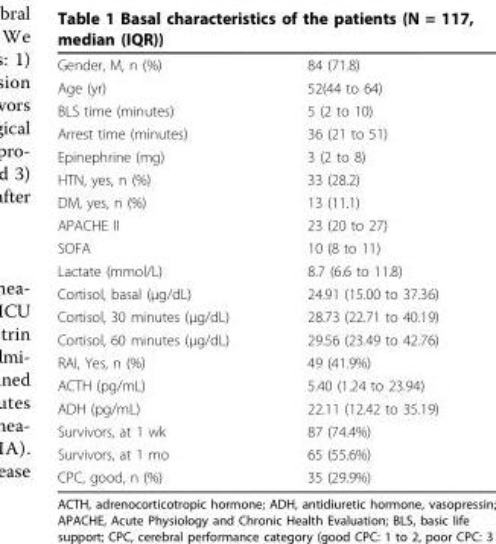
<table><tbody><tr><td>Gender, M, n (%)</td><td>84 (71.8)</td></tr><tr><td>Age (yr)</td><td>52(44 to 64)</td></tr><tr><td>BLS time (minutes)</td><td>5 (2 to 10)</td></tr><tr><td>Arrest time (minutes)</td><td>36 (21 to 51)</td></tr><tr><td>Epinephrine (mg)</td><td>3 (2 to 8)</td></tr><tr><td>HTN, yes, n (%)</td><td>33 (28.2)</td></tr><tr><td>DM, yes, n (%)</td><td>13 (11.1)</td></tr><tr><td>APACHE II</td><td>23 (20 to 27)</td></tr><tr><td>SOFA</td><td>10 (8 to 11)</td></tr><tr><td>Lactate (mmol/L)</td><td>8.7 (6.6 to 11.8)</td></tr><tr><td>Cortisol, basal (μg/dL)</td><td>24.91 (15.00 to 37.36)</td></tr><tr><td>Cortisol, 30 minutes (μg/dL)</td><td>28.73 (22.71 to 40.19)</td></tr><tr><td>Cortisol, 60 minutes (μg/dL)</td><td>29.56 (23.49 to 42.76)</td></tr><tr><td>RAI, Yes, n (%)</td><td>49 (41.9%)</td></tr><tr><td>ACTH (pg/mL)</td><td>5.40 (1.24 to 23.94)</td></tr><tr><td>ADH (pg/mL)</td><td>22.11 (12.42 to 35.19)</td></tr><tr><td>Survivors, at 1 wk</td><td>87 (74.4%)</td></tr><tr><td>Survivors, at 1 mo</td><td>65 (55.6%)</td></tr><tr><td>CPC, good, n (%)</td><td>35 (29.9%)</td></tr></tbody></table>